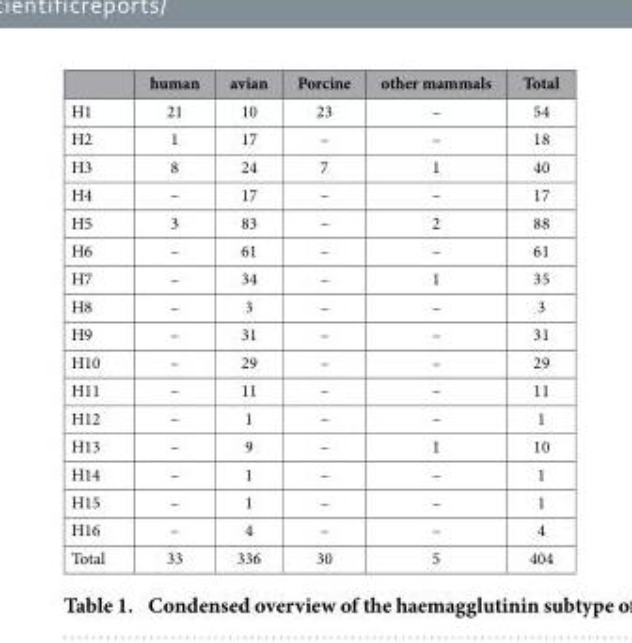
<table><thead><tr><td></td><td>human</td><td>avian</td><td>Porcine</td><td>other mammals</td><td>Total</td></tr></thead><tbody><tr><td>H1</td><td>21</td><td>10</td><td>23</td><td>–</td><td>54</td></tr><tr><td>H2</td><td>1</td><td>17</td><td>–</td><td>–</td><td>18</td></tr><tr><td>H3</td><td>8</td><td>24</td><td>7</td><td>1</td><td>40</td></tr><tr><td>H4</td><td>–</td><td>17</td><td>–</td><td>–</td><td>17</td></tr><tr><td>H5</td><td>3</td><td>83</td><td>–</td><td>2</td><td>88</td></tr><tr><td>H6</td><td>–</td><td>61</td><td>–</td><td>–</td><td>61</td></tr><tr><td>H7</td><td>–</td><td>34</td><td>–</td><td>1</td><td>35</td></tr><tr><td>H8</td><td>–</td><td>3</td><td>–</td><td>–</td><td>3</td></tr><tr><td>H9</td><td>–</td><td>31</td><td>–</td><td>–</td><td>31</td></tr><tr><td>H10</td><td>–</td><td>29</td><td>–</td><td>–</td><td>29</td></tr><tr><td>H11</td><td>–</td><td>11</td><td>–</td><td>–</td><td>11</td></tr><tr><td>H12</td><td>–</td><td>1</td><td>–</td><td>–</td><td>1</td></tr><tr><td>H13</td><td>–</td><td>9</td><td>–</td><td>1</td><td>10</td></tr><tr><td>H14</td><td>–</td><td>1</td><td>–</td><td>–</td><td>1</td></tr><tr><td>H15</td><td>–</td><td>1</td><td>–</td><td>–</td><td>1</td></tr><tr><td>H16</td><td>–</td><td>4</td><td>–</td><td>–</td><td>4</td></tr><tr><td>Total</td><td>33</td><td>336</td><td>30</td><td>5</td><td>404</td></tr></tbody></table>